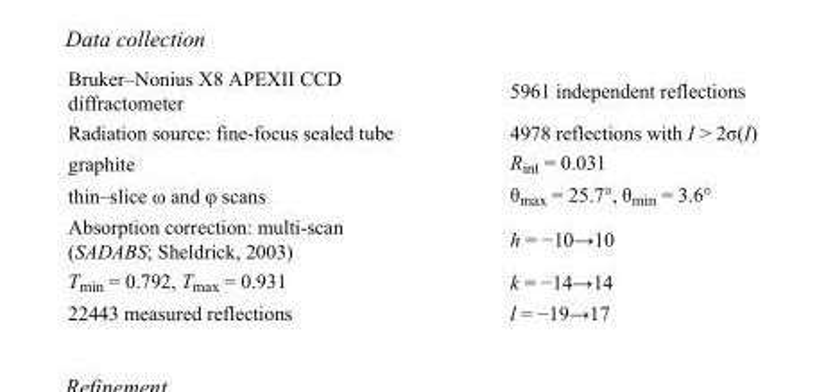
<table><tbody><tr><td>Bruker–Nonius X8 APEXII CCD diffractometer</td><td>5961 independent reflections</td></tr><tr><td>Radiation source: fine-focus sealed tube</td><td>4978 reflections with I &gt; 2σ(I)</td></tr><tr><td>graphite</td><td>R<sub>int</sub> = 0.031</td></tr><tr><td>thin–slice ω and φ scans</td><td>θ<sub>max</sub> = 25.7°, θ<sub>min</sub> = 3.6°</td></tr><tr><td>Absorption correction: multi-scan (SADABS; Sheldrick, 2003)</td><td>h = −10→10</td></tr><tr><td>T<sub>min</sub> = 0.792, T<sub>max</sub> = 0.931</td><td>k = −14→14</td></tr><tr><td>22443 measured reflections</td><td>l = −19→17</td></tr></tbody></table>